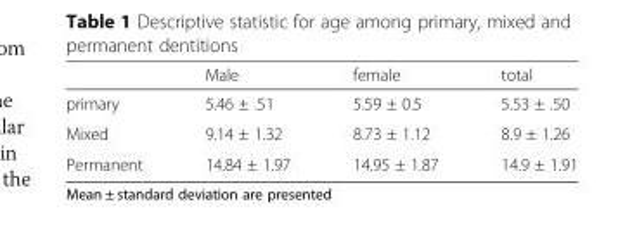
<table><thead><tr><td></td><td>Male</td><td>female</td><td>total</td></tr></thead><tbody><tr><td>primary</td><td>5.46 ± .51</td><td>5.59 ± 0.5</td><td>5.53 ± .50</td></tr><tr><td>Mixed</td><td>9.14 ± 1.32</td><td>8.73 ± 1.12</td><td>8.9 ± 1.26</td></tr><tr><td>Permanent</td><td>14.84 ± 1.97</td><td>14.95 ± 1.87</td><td>14.9 ± 1.91</td></tr></tbody></table>